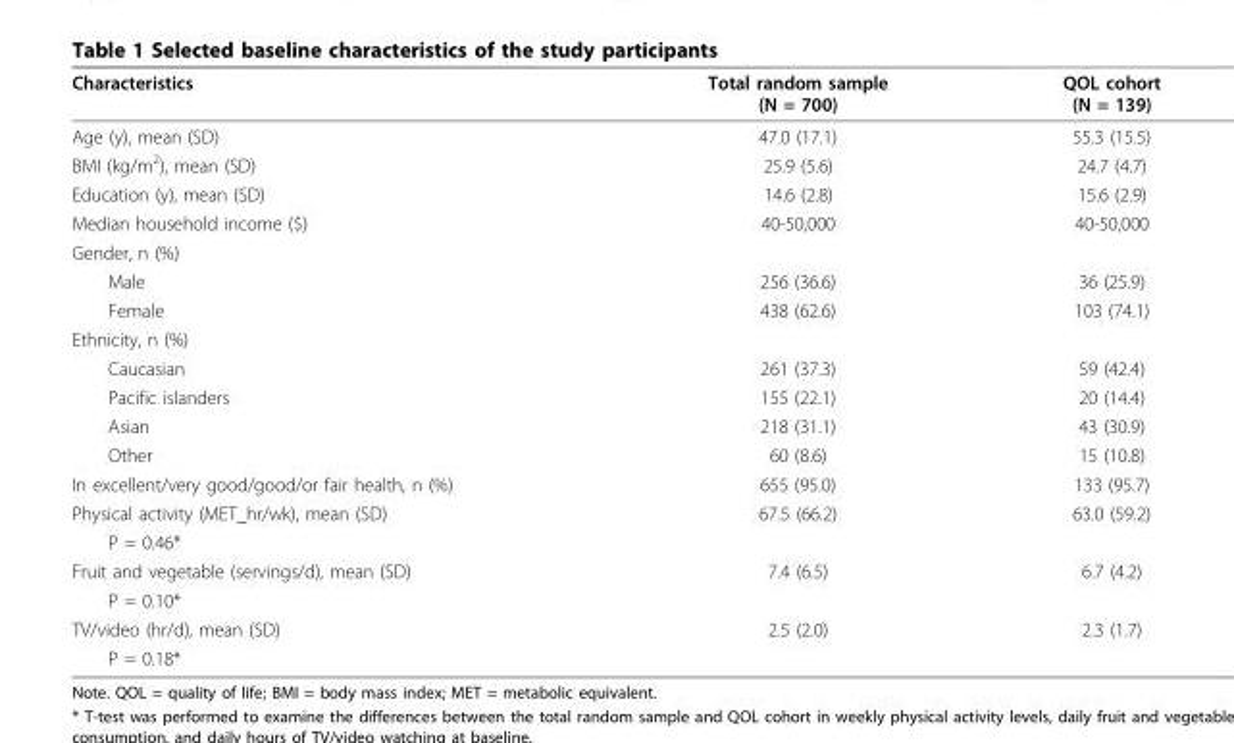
<table><thead><tr><td>Characteristics</td><td>Total random sample (N = 700)</td><td>QOL cohort (N = 139)</td></tr></thead><tbody><tr><td>Age (y), mean (SD)</td><td>47.0 (17.1)</td><td>55.3 (15.5)</td></tr><tr><td>BMI (kg/m<sup>2</sup>), mean (SD)</td><td>25.9 (5.6)</td><td>24.7 (4.7)</td></tr><tr><td>Education (y), mean (SD)</td><td>14.6 (2.8)</td><td>15.6 (2.9)</td></tr><tr><td>Median household income ($)</td><td>40-50,000</td><td>40-50,000</td></tr><tr><td colspan="3">Gender, n (%)</td></tr><tr><td>Male</td><td>256 (36.6)</td><td>36 (25.9)</td></tr><tr><td>Female</td><td>438 (62.6)</td><td>103 (74.1)</td></tr><tr><td colspan="3">Ethnicity, n (%)</td></tr><tr><td>Caucasian</td><td>261 (37.3)</td><td>59 (42.4)</td></tr><tr><td>Pacific islanders</td><td>155 (22.1)</td><td>20 (14.4)</td></tr><tr><td>Asian</td><td>218 (31.1)</td><td>43 (30.9)</td></tr><tr><td>Other</td><td>60 (8.6)</td><td>15 (10.8)</td></tr><tr><td>In excellent/very good/good/or fair health, n (%)</td><td>655 (95.0)</td><td>133 (95.7)</td></tr><tr><td>Physical activity (MET_hr/wk), mean (SD)</td><td>67.5 (66.2)</td><td>63.0 (59.2)</td></tr><tr><td colspan="3">P = 0.46*</td></tr><tr><td>Fruit and vegetable (servings/d), mean (SD)</td><td>7.4 (6.5)</td><td>6.7 (4.2)</td></tr><tr><td colspan="3">P = 0.10*</td></tr><tr><td>TV/video (hr/d), mean (SD)</td><td>2.5 (2.0)</td><td>2.3 (1.7)</td></tr><tr><td>P = 0.18*</td><td></td><td></td></tr></tbody></table>